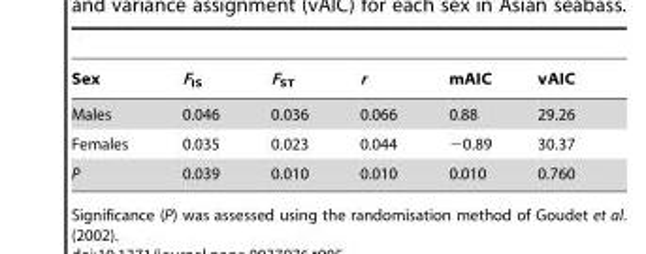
<table><thead><tr><td>Sex</td><td>F<sub>IS</sub></td><td>F<sub>ST</sub></td><td>r</td><td>mAIC</td><td>vAIC</td></tr></thead><tbody><tr><td>Males</td><td>0.046</td><td>0.036</td><td>0.066</td><td>0.88</td><td>29.26</td></tr><tr><td>Females</td><td>0.035</td><td>0.023</td><td>0.044</td><td>−0.89</td><td>30.37</td></tr><tr><td>P</td><td>0.039</td><td>0.010</td><td>0.010</td><td>0.010</td><td>0.760</td></tr></tbody></table>